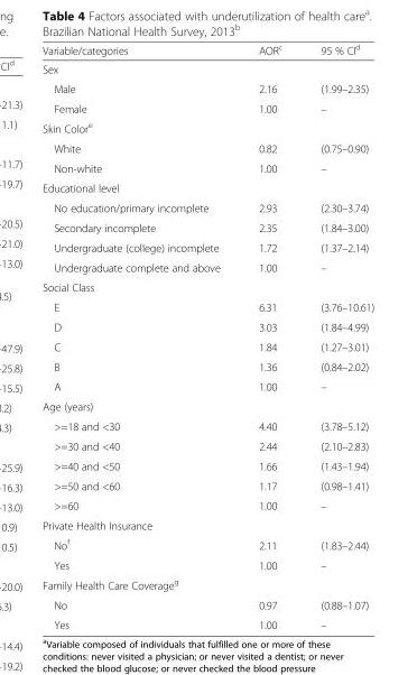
<table><thead><tr><td>Variable/categories</td><td>AOR<sup>c</sup></td><td>95 % CI<sup>d</sup></td></tr></thead><tbody><tr><td colspan="3">Sex</td></tr><tr><td>Male</td><td>2.16</td><td>(1.99–2.35)</td></tr><tr><td>Female</td><td>1.00</td><td>–</td></tr><tr><td colspan="3">Skin Color<sup>e</sup></td></tr><tr><td>White</td><td>0.82</td><td>(0.75–0.90)</td></tr><tr><td>Non-white</td><td>1.00</td><td>–</td></tr><tr><td colspan="3">Educational level</td></tr><tr><td>No education/primary incomplete</td><td>2.93</td><td>(2.30–3.74)</td></tr><tr><td>Secondary incomplete</td><td>2.35</td><td>(1.84–3.00)</td></tr><tr><td>Undergraduate (college) incomplete</td><td>1.72</td><td>(1.37–2.14)</td></tr><tr><td>Undergraduate complete and above</td><td>1.00</td><td>–</td></tr><tr><td colspan="3">Social Class</td></tr><tr><td>E</td><td>6.31</td><td>(3.76–10.61)</td></tr><tr><td>D</td><td>3.03</td><td>(1.84–4.99)</td></tr><tr><td>C</td><td>1.84</td><td>(1.27–3.01)</td></tr><tr><td>B</td><td>1.36</td><td>(0.84–2.02)</td></tr><tr><td>A</td><td>1.00</td><td>–</td></tr><tr><td colspan="3">Age (years)</td></tr><tr><td>&gt;=18 and &lt;30</td><td>4.40</td><td>(3.78–5.12)</td></tr><tr><td>&gt;=30 and &lt;40</td><td>2.44</td><td>(2.10–2.83)</td></tr><tr><td>&gt;=40 and &lt;50</td><td>1.66</td><td>(1.43–1.94)</td></tr><tr><td>&gt;=50 and &lt;60</td><td>1.17</td><td>(0.98–1.41)</td></tr><tr><td>&gt;=60</td><td>1.00</td><td>–</td></tr><tr><td colspan="3">Private Health Insurance</td></tr><tr><td>No<sup>f</sup></td><td>2.11</td><td>(1.83–2.44)</td></tr><tr><td>Yes</td><td>1.00</td><td>–</td></tr><tr><td colspan="3">Family Health Care Coverage<sup>g</sup></td></tr><tr><td>No</td><td>0.97</td><td>(0.88–1.07)</td></tr><tr><td>Yes</td><td>1.00</td><td>–</td></tr></tbody></table>